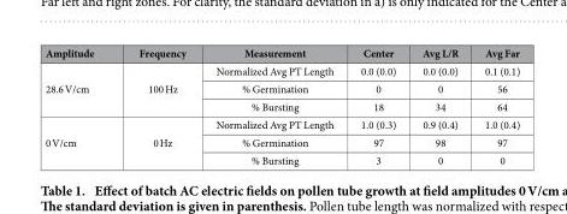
<table><thead><tr><td>Amplitude</td><td>Frequency</td><td>Measurement</td><td>Center</td><td>Avg L/R</td><td>Avg Far</td></tr></thead><tbody><tr><td rowspan="3">28.6 V/cm</td><td rowspan="3">100 Hz</td><td>Normalized Avg PT Length</td><td>0.0 (0.0)</td><td>0.0 (0.0)</td><td>0.1 (0.1)</td></tr><tr><td>% Germination</td><td>0</td><td>0</td><td>56</td></tr><tr><td>% Bursting</td><td>18</td><td>34</td><td>64</td></tr><tr><td rowspan="3">0 V/cm</td><td rowspan="3">0 Hz</td><td>Normalized Avg PT Length</td><td>1.0 (0.3)</td><td>0.9 (0.4)</td><td>1.0 (0.4)</td></tr><tr><td>% Germination</td><td>97</td><td>98</td><td>97</td></tr><tr><td>% Bursting</td><td>3</td><td>0</td><td>0</td></tr></tbody></table>